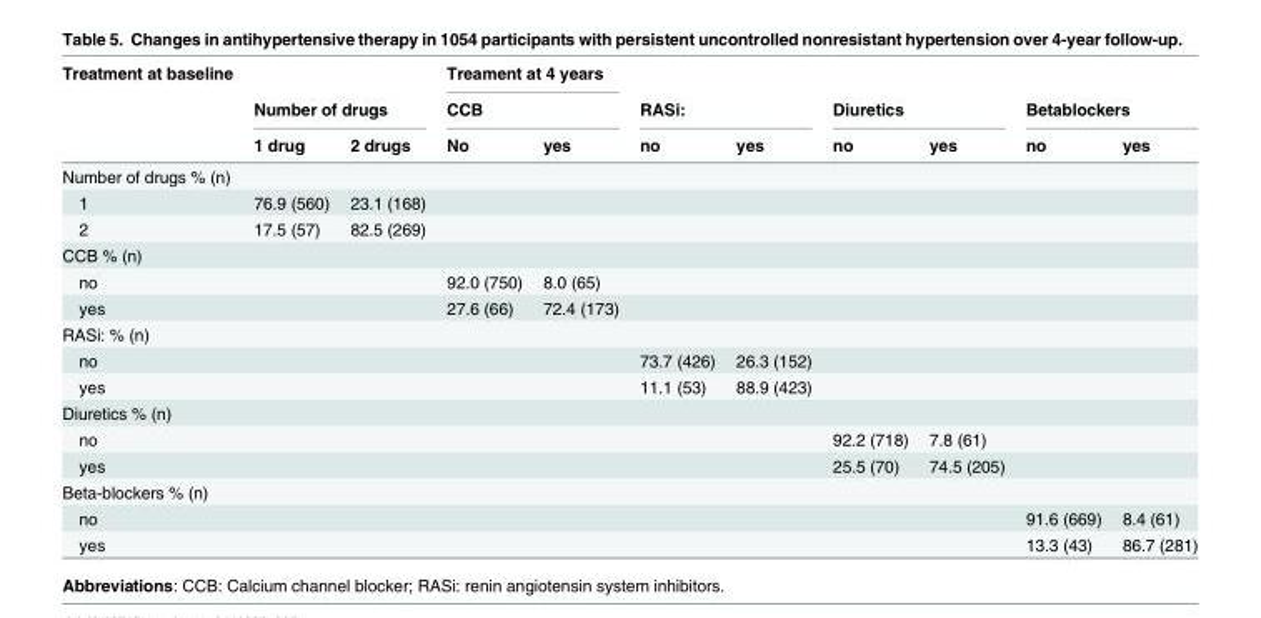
<table><thead><tr><td rowspan="3">Treatment at baseline</td><td></td><td></td><td rowspan="2" colspan="2">Treament at 4 years CCB</td><td></td><td></td><td></td><td></td><td></td><td></td></tr><tr><td colspan="2">Number of drugs</td><td colspan="2">RASi:</td><td colspan="2">Diuretics</td><td colspan="2">Betablockers</td></tr><tr><td>1 drug</td><td>2 drugs</td><td>No</td><td>yes</td><td>no</td><td>yes</td><td>no</td><td>yes</td><td>no</td><td>yes</td></tr></thead><tbody><tr><td colspan="11">Number of drugs % (n)</td></tr><tr><td>1</td><td>76.9 (560)</td><td>23.1 (168)</td><td></td><td></td><td></td><td></td><td></td><td></td><td></td><td></td></tr><tr><td>2</td><td>17.5 (57)</td><td>82.5 (269)</td><td></td><td></td><td></td><td></td><td></td><td></td><td></td><td></td></tr><tr><td colspan="11">CCB % (n)</td></tr><tr><td>no</td><td></td><td></td><td>92.0 (750)</td><td>8.0 (65)</td><td></td><td></td><td></td><td></td><td></td><td></td></tr><tr><td>yes</td><td></td><td></td><td>27.6 (66)</td><td>72.4 (173)</td><td></td><td></td><td></td><td></td><td></td><td></td></tr><tr><td colspan="11">RASi: % (n)</td></tr><tr><td>no</td><td></td><td></td><td></td><td></td><td>73.7 (426)</td><td>26.3 (152)</td><td></td><td></td><td></td><td></td></tr><tr><td>yes</td><td></td><td></td><td></td><td></td><td>11.1 (53)</td><td>88.9 (423)</td><td></td><td></td><td></td><td></td></tr><tr><td colspan="11">Diuretics % (n)</td></tr><tr><td>no</td><td></td><td></td><td></td><td></td><td></td><td></td><td>92.2 (718)</td><td>7.8 (61)</td><td></td><td></td></tr><tr><td>yes</td><td></td><td></td><td></td><td></td><td></td><td></td><td>25.5 (70)</td><td>74.5 (205)</td><td></td><td></td></tr><tr><td colspan="11">Beta-blockers % (n)</td></tr><tr><td>no</td><td></td><td></td><td></td><td></td><td></td><td></td><td></td><td></td><td>91.6 (669)</td><td>8.4 (61)</td></tr><tr><td>yes</td><td></td><td></td><td></td><td></td><td></td><td></td><td></td><td></td><td>13.3 (43)</td><td>86.7 (281)</td></tr></tbody></table>